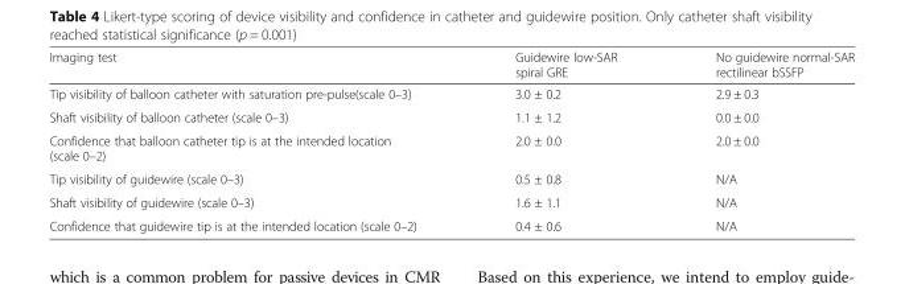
<table><thead><tr><td>Imaging test</td><td>Guidewire low-SAR spiral GRE</td><td>No guidewire normal-SAR rectilinear bSSFP</td></tr></thead><tbody><tr><td>Tip visibility of balloon catheter with saturation pre-pulse(scale 0–3)</td><td>3.0 ± 0.2</td><td>2.9 ± 0.3</td></tr><tr><td>Shaft visibility of balloon catheter (scale 0–3)</td><td>1.1 ± 1.2</td><td>0.0 ± 0.0</td></tr><tr><td>Confidence that balloon catheter tip is at the intended location (scale 0–2)</td><td>2.0 ± 0.0</td><td>2.0 ± 0.0</td></tr><tr><td>Tip visibility of guidewire (scale 0–3)</td><td>0.5 ± 0.8</td><td>N/A</td></tr><tr><td>Shaft visibility of guidewire (scale 0–3)</td><td>1.6 ± 1.1</td><td>N/A</td></tr><tr><td>Confidence that guidewire tip is at the intended location (scale 0–2)</td><td>0.4 ± 0.6</td><td>N/A</td></tr></tbody></table>